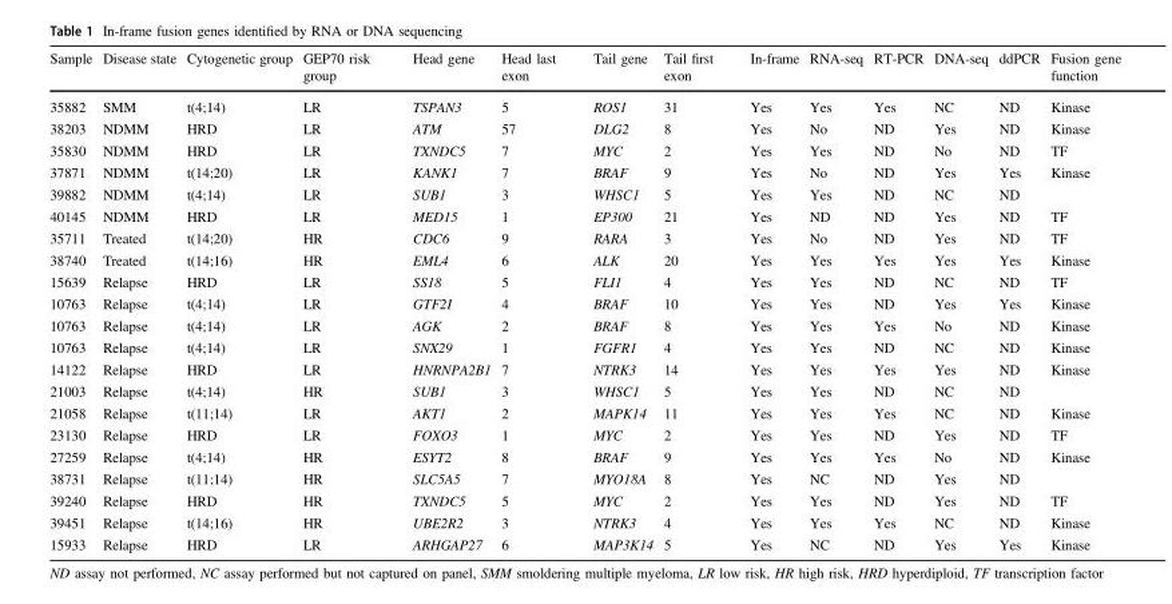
<table><thead><tr><td>Sample</td><td>Disease state</td><td>Cytogenetic group</td><td>GEP70 risk group</td><td>Head gene</td><td>Head last exon</td><td>Tail gene</td><td>Tail first exon</td><td>In-frame</td><td>RNA-seq</td><td>RT-PCR</td><td>DNA-seq</td><td>ddPCR</td><td>Fusion gene function</td></tr></thead><tbody><tr><td>35882</td><td>SMM</td><td>t(4;14)</td><td>LR</td><td>TSPAN3</td><td>5</td><td>ROS1</td><td>31</td><td>Yes</td><td>Yes</td><td>Yes</td><td>NC</td><td>ND</td><td>Kinase</td></tr><tr><td>38203</td><td>NDMM</td><td>HRD</td><td>LR</td><td>ATM</td><td>57</td><td>DLG2</td><td>8</td><td>Yes</td><td>No</td><td>ND</td><td>Yes</td><td>ND</td><td>Kinase</td></tr><tr><td>35830</td><td>NDMM</td><td>HRD</td><td>LR</td><td>TXNDC5</td><td>7</td><td>MYC</td><td>2</td><td>Yes</td><td>Yes</td><td>ND</td><td>No</td><td>ND</td><td>TF</td></tr><tr><td>37871</td><td>NDMM</td><td>t(14;20)</td><td>LR</td><td>KANK1</td><td>7</td><td>BRAF</td><td>9</td><td>Yes</td><td>No</td><td>ND</td><td>Yes</td><td>Yes</td><td>Kinase</td></tr><tr><td>39882</td><td>NDMM</td><td>t(4;14)</td><td>LR</td><td>SUB1</td><td>3</td><td>WHSC1</td><td>5</td><td>Yes</td><td>Yes</td><td>ND</td><td>NC</td><td>ND</td><td></td></tr><tr><td>40145</td><td>NDMM</td><td>HRD</td><td>LR</td><td>MED15</td><td>1</td><td>EP300</td><td>21</td><td>Yes</td><td>ND</td><td>ND</td><td>Yes</td><td>ND</td><td>TF</td></tr><tr><td>35711</td><td>Treated</td><td>t(14;20)</td><td>HR</td><td>CDC6</td><td>9</td><td>RARA</td><td>3</td><td>Yes</td><td>No</td><td>ND</td><td>Yes</td><td>ND</td><td>TF</td></tr><tr><td>38740</td><td>Treated</td><td>t(14;16)</td><td>HR</td><td>EML4</td><td>6</td><td>ALK</td><td>20</td><td>Yes</td><td>Yes</td><td>Yes</td><td>Yes</td><td>Yes</td><td>Kinase</td></tr><tr><td>15639</td><td>Relapse</td><td>HRD</td><td>LR</td><td>SS18</td><td>5</td><td>FLI1</td><td>4</td><td>Yes</td><td>Yes</td><td>ND</td><td>NC</td><td>ND</td><td>TF</td></tr><tr><td>10763</td><td>Relapse</td><td>t(4;14)</td><td>LR</td><td>GTF2I</td><td>4</td><td>BRAF</td><td>10</td><td>Yes</td><td>Yes</td><td>ND</td><td>Yes</td><td>Yes</td><td>Kinase</td></tr><tr><td>10763</td><td>Relapse</td><td>t(4;14)</td><td>LR</td><td>AGK</td><td>2</td><td>BRAF</td><td>8</td><td>Yes</td><td>Yes</td><td>Yes</td><td>No</td><td>ND</td><td>Kinase</td></tr><tr><td>10763</td><td>Relapse</td><td>t(4;14)</td><td>LR</td><td>SNX29</td><td>1</td><td>FGFR1</td><td>4</td><td>Yes</td><td>Yes</td><td>ND</td><td>NC</td><td>ND</td><td>Kinase</td></tr><tr><td>14122</td><td>Relapse</td><td>HRD</td><td>LR</td><td>HNRNPA2B1</td><td>7</td><td>NTRK3</td><td>14</td><td>Yes</td><td>Yes</td><td>Yes</td><td>Yes</td><td>ND</td><td>Kinase</td></tr><tr><td>21003</td><td>Relapse</td><td>t(4;14)</td><td>HR</td><td>SUB1</td><td>3</td><td>WHSC1</td><td>5</td><td>Yes</td><td>Yes</td><td>ND</td><td>NC</td><td>ND</td><td></td></tr><tr><td>21058</td><td>Relapse</td><td>t(11;14)</td><td>LR</td><td>AKT1</td><td>2</td><td>MAPK14</td><td>11</td><td>Yes</td><td>Yes</td><td>Yes</td><td>NC</td><td>ND</td><td>Kinase</td></tr><tr><td>23130</td><td>Relapse</td><td>HRD</td><td>LR</td><td>FOXO3</td><td>1</td><td>MYC</td><td>2</td><td>Yes</td><td>Yes</td><td>ND</td><td>Yes</td><td>ND</td><td>TF</td></tr><tr><td>27259</td><td>Relapse</td><td>t(4;14)</td><td>HR</td><td>ESYT2</td><td>8</td><td>BRAF</td><td>9</td><td>Yes</td><td>Yes</td><td>Yes</td><td>No</td><td>ND</td><td>Kinase</td></tr><tr><td>38731</td><td>Relapse</td><td>t(11;14)</td><td>HR</td><td>SLC5A5</td><td>7</td><td>MYO18A</td><td>8</td><td>Yes</td><td>NC</td><td>ND</td><td>Yes</td><td>ND</td><td></td></tr><tr><td>39240</td><td>Relapse</td><td>HRD</td><td>HR</td><td>TXNDC5</td><td>5</td><td>MYC</td><td>2</td><td>Yes</td><td>Yes</td><td>ND</td><td>Yes</td><td>ND</td><td>TF</td></tr><tr><td>39451</td><td>Relapse</td><td>t(14;16)</td><td>HR</td><td>UBE2R2</td><td>3</td><td>NTRK3</td><td>4</td><td>Yes</td><td>Yes</td><td>Yes</td><td>NC</td><td>ND</td><td>Kinase</td></tr><tr><td>15933</td><td>Relapse</td><td>HRD</td><td>LR</td><td>ARHGAP27</td><td>6</td><td>MAP3K14</td><td>5</td><td>Yes</td><td>NC</td><td>ND</td><td>Yes</td><td>Yes</td><td>Kinase</td></tr></tbody></table>